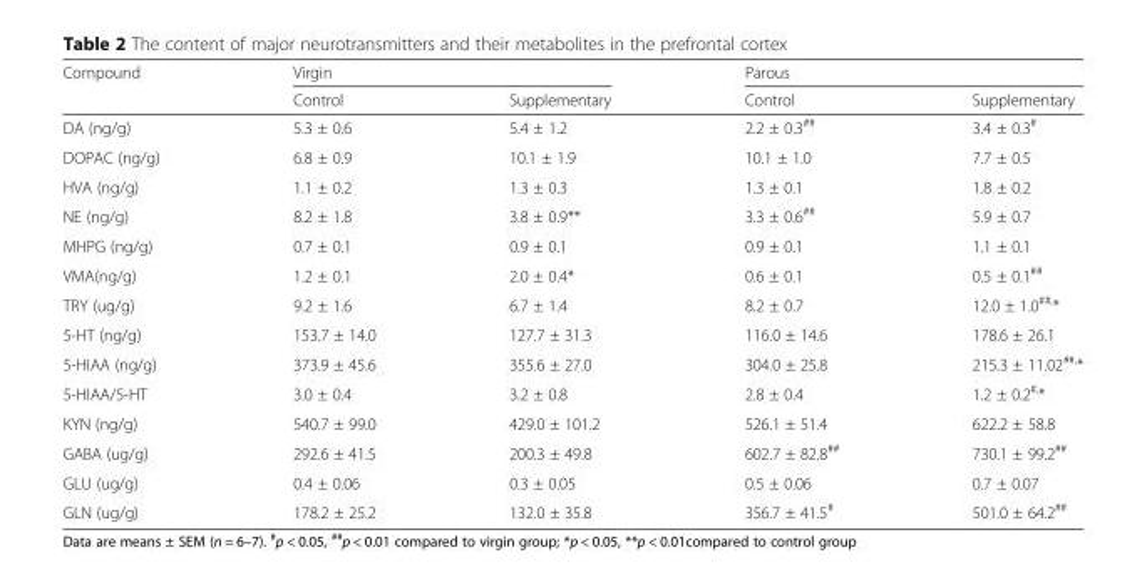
<table><thead><tr><td rowspan="2">Compound</td><td colspan="2">Virgin</td><td colspan="2">Parous</td></tr><tr><td>Control</td><td>Supplementary</td><td>Control</td><td>Supplementary</td></tr></thead><tbody><tr><td>DA (ng/g)</td><td>5.3 ± 0.6</td><td>5.4 ± 1.2</td><td>2.2 ± 0.3<sup>##</sup></td><td>3.4 ± 0.3<sup>#</sup></td></tr><tr><td>DOPAC (ng/g)</td><td>6.8 ± 0.9</td><td>10.1 ± 1.9</td><td>10.1 ± 1.0</td><td>7.7 ± 0.5</td></tr><tr><td>HVA (ng/g)</td><td>1.1 ± 0.2</td><td>1.3 ± 0.3</td><td>1.3 ± 0.1</td><td>1.8 ± 0.2</td></tr><tr><td>NE (ng/g)</td><td>8.2 ± 1.8</td><td>3.8 ± 0.9**</td><td>3.3 ± 0.6<sup>##</sup></td><td>5.9 ± 0.7</td></tr><tr><td>MHPG (ng/g)</td><td>0.7 ± 0.1</td><td>0.9 ± 0.1</td><td>0.9 ± 0.1</td><td>1.1 ± 0.1</td></tr><tr><td>VMA(ng/g)</td><td>1.2 ± 0.1</td><td>2.0 ± 0.4*</td><td>0.6 ± 0.1</td><td>0.5 ± 0.1<sup>##</sup></td></tr><tr><td>TRY (ug/g)</td><td>9.2 ± 1.6</td><td>6.7 ± 1.4</td><td>8.2 ± 0.7</td><td>12.0 ± 1.0<sup>##,</sup>*</td></tr><tr><td>5-HT (ng/g)</td><td>153.7 ± 14.0</td><td>127.7 ± 31.3</td><td>116.0 ± 14.6</td><td>178.6 ± 26.1</td></tr><tr><td>5-HIAA (ng/g)</td><td>373.9 ± 45.6</td><td>355.6 ± 27.0</td><td>304.0 ± 25.8</td><td>215.3 ± 11.02<sup>##,</sup>*</td></tr><tr><td>5-HIAA/5-HT</td><td>3.0 ± 0.4</td><td>3.2 ± 0.8</td><td>2.8 ± 0.4</td><td>1.2 ± 0.2<sup>#,</sup>*</td></tr><tr><td>KYN (ng/g)</td><td>540.7 ± 99.0</td><td>429.0 ± 101.2</td><td>526.1 ± 51.4</td><td>622.2 ± 58.8</td></tr><tr><td>GABA (ug/g)</td><td>292.6 ± 41.5</td><td>200.3 ± 49.8</td><td>602.7 ± 82.8<sup>##</sup></td><td>730.1 ± 99.2<sup>##</sup></td></tr><tr><td>GLU (ug/g)</td><td>0.4 ± 0.06</td><td>0.3 ± 0.05</td><td>0.5 ± 0.06</td><td>0.7 ± 0.07</td></tr><tr><td>GLN (ug/g)</td><td>178.2 ± 25.2</td><td>132.0 ± 35.8</td><td>356.7 ± 41.5<sup>#</sup></td><td>501.0 ± 64.2<sup>##</sup></td></tr></tbody></table>